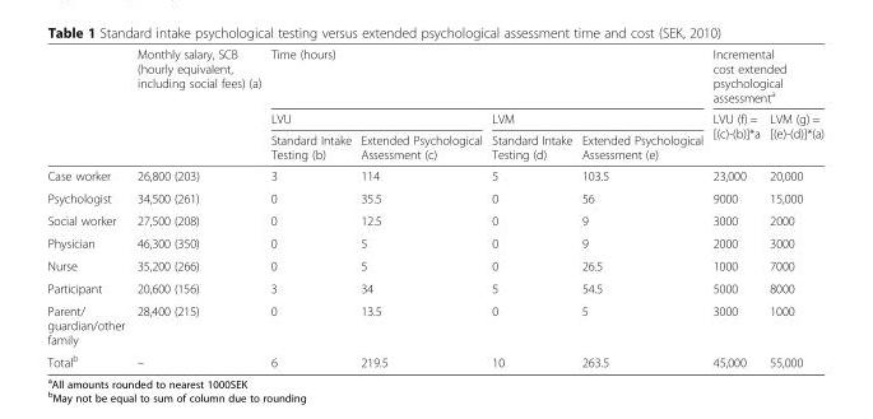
<table><thead><tr><td rowspan="3"></td><td rowspan="3">Monthly salary, SCB (hourly equivalent, including social fees) (a)</td><td colspan="4">Time (hours)</td><td colspan="2">Incremental cost extended psychological assessment<sup>a</sup></td></tr><tr><td colspan="2">LVU</td><td colspan="2">LVM</td><td rowspan="2">LVU (f) = [(c)-(b)]*a</td><td rowspan="2">LVM (g) = [(e)-(d)]*(a)</td></tr><tr><td>Standard Intake Testing (b)</td><td>Extended Psychological Assessment (c)</td><td>Standard Intake Testing (d)</td><td>Extended Psychological Assessment (e)</td></tr></thead><tbody><tr><td>Case worker</td><td>26,800 (203)</td><td>3</td><td>114</td><td>5</td><td>103.5</td><td>23,000</td><td>20,000</td></tr><tr><td>Psychologist</td><td>34,500 (261)</td><td>0</td><td>35.5</td><td>0</td><td>56</td><td>9000</td><td>15,000</td></tr><tr><td>Social worker</td><td>27,500 (208)</td><td>0</td><td>12.5</td><td>0</td><td>9</td><td>3000</td><td>2000</td></tr><tr><td>Physician</td><td>46,300 (350)</td><td>0</td><td>5</td><td>0</td><td>9</td><td>2000</td><td>3000</td></tr><tr><td>Nurse</td><td>35,200 (266)</td><td>0</td><td>5</td><td>0</td><td>26.5</td><td>1000</td><td>7000</td></tr><tr><td>Participant</td><td>20,600 (156)</td><td>3</td><td>34</td><td>5</td><td>54.5</td><td>5000</td><td>8000</td></tr><tr><td>Parent/ guardian/other family</td><td>28,400 (215)</td><td>0</td><td>13.5</td><td>0</td><td>5</td><td>3000</td><td>1000</td></tr><tr><td>Total<sup>b</sup></td><td>–</td><td>6</td><td>219.5</td><td>10</td><td>263.5</td><td>45,000</td><td>55,000</td></tr></tbody></table>